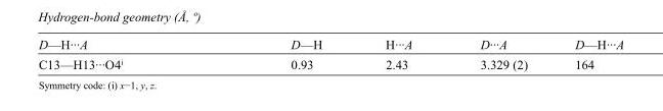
<table><tbody><tr><td>D—H···A</td><td>D—H</td><td>H···A</td><td>D···A</td><td>D—H···A</td></tr><tr><td>C13—H13···O4<sup>i</sup></td><td>0.93</td><td>2.43</td><td>3.329 (2)</td><td>164</td></tr></tbody></table>